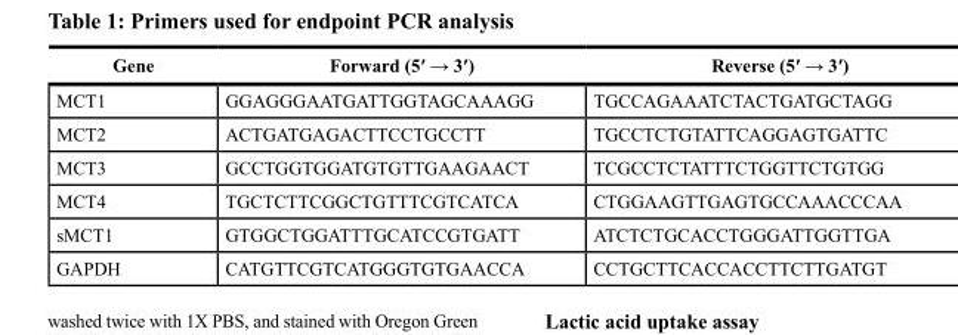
<table><thead><tr><td>Gene</td><td>Forward (5′ → 3′)</td><td>Reverse (5′ → 3′)</td></tr></thead><tbody><tr><td>MCT1</td><td>GGAGGGAATGATTGGTAGCAAAGG</td><td>TGCCAGAAATCTACTGATGCTAGG</td></tr><tr><td>MCT2</td><td>ACTGATGAGACTTCCTGCCTT</td><td>TGCCTCTGTATTCAGGAGTGATTC</td></tr><tr><td>MCT3</td><td>GCCTGGTGGATGTGTTGAAGAACT</td><td>TCGCCTCTATTTCTGGTTCTGTGG</td></tr><tr><td>MCT4</td><td>TGCTCTTCGGCTGTTTCGTCATCA</td><td>CTGGAAGTTGAGTGCCAAACCCAA</td></tr><tr><td>sMCT1</td><td>GTGGCTGGATTTGCATCCGTGATT</td><td>ATCTCTGCACCTGGGATTGGTTGA</td></tr><tr><td>GAPDH</td><td>CATGTTCGTCATGGGTGTGAACCA</td><td>CCTGCTTCACCACCTTCTTGATGT</td></tr></tbody></table>